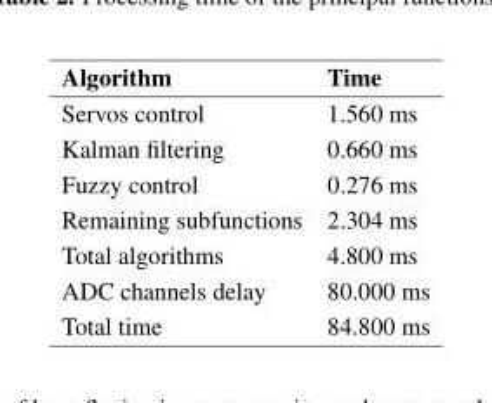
<table><thead><tr><td>Algorithm</td><td>Time</td></tr></thead><tbody><tr><td>Servos control</td><td>1.560 ms</td></tr><tr><td>Kalman filtering</td><td>0.660 ms</td></tr><tr><td>Fuzzy control</td><td>0.276 ms</td></tr><tr><td>Remaining subfunctions</td><td>2.304 ms</td></tr><tr><td>Total algorithms</td><td>4.800 ms</td></tr><tr><td>ADC channels delay</td><td>80.000 ms</td></tr><tr><td>Total time</td><td>84.800 ms</td></tr></tbody></table>